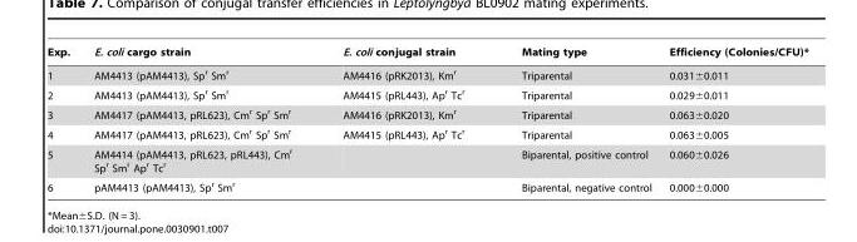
<table><thead><tr><td>Exp.</td><td>E. coli cargo strain</td><td>E. coli conjugal strain</td><td>Mating type</td><td>Efficiency (Colonies/CFU)*</td></tr></thead><tbody><tr><td>1</td><td>AM4413 (pAM4413), Sp<sup>r</sup> Sm<sup>r</sup></td><td>AM4416 (pRK2013), Km<sup>r</sup></td><td>Triparental</td><td>0.031±0.011</td></tr><tr><td>2</td><td>AM4413 (pAM4413), Sp<sup>r</sup> Sm<sup>r</sup></td><td>AM4415 (pRL443), Ap<sup>r</sup> Tc<sup>r</sup></td><td>Triparental</td><td>0.029±0.011</td></tr><tr><td>3</td><td>AM4417 (pAM4413, pRL623), Cm<sup>r</sup> Sp<sup>r</sup> Sm<sup>r</sup></td><td>AM4416 (pRK2013), Km<sup>r</sup></td><td>Triparental</td><td>0.063±0.020</td></tr><tr><td>4</td><td>AM4417 (pAM4413, pRL623), Cm<sup>r</sup> Sp<sup>r</sup> Sm<sup>r</sup></td><td>AM4415 (pRL443), Ap<sup>r</sup> Tc<sup>r</sup></td><td>Triparental</td><td>0.063±0.005</td></tr><tr><td>5</td><td>AM4414 (pAM4413, pRL623, pRL443), Cm<sup>r</sup> Sp<sup>r</sup> Sm<sup>r</sup> Ap<sup>r</sup> Tc<sup>r</sup></td><td></td><td>Biparental, positive control</td><td>0.060±0.026</td></tr><tr><td>6</td><td>pAM4413 (pAM4413), Sp<sup>r</sup> Sm<sup>r</sup></td><td></td><td>Biparental, negative control</td><td>0.000±0.000</td></tr></tbody></table>